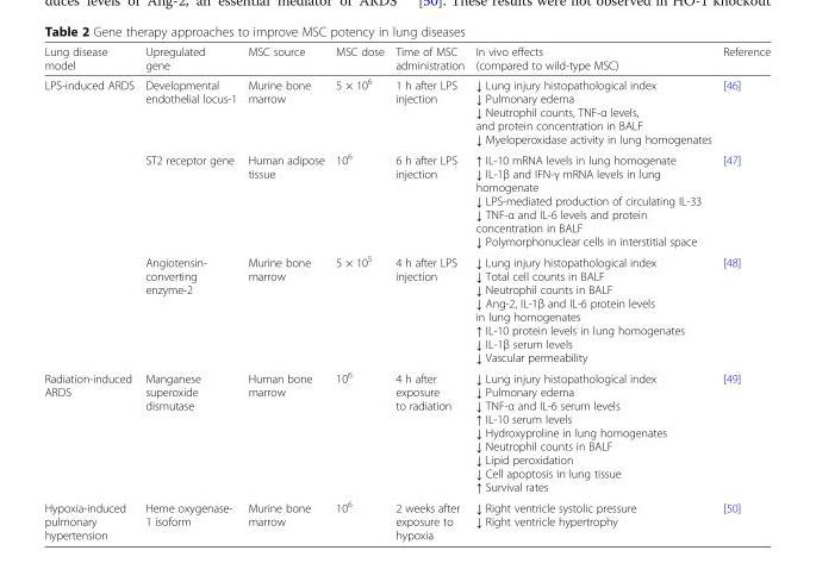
<table><thead><tr><td>Lung disease model</td><td>Upregulated gene</td><td>MSC source</td><td>MSC dose</td><td>Time of MSC administration</td><td>In vivo effects (compared to wild-type MSC)</td><td>Reference</td></tr></thead><tbody><tr><td rowspan="3">LPS-induced ARDS</td><td>Developmental endothelial locus-1</td><td>Murine bone marrow</td><td>5 × 10<sup>6</sup></td><td>1 h after LPS injection</td><td>↓ Lung injury histopathological index ↓ Pulmonary edema ↓ Neutrophil counts, TNF-α levels, and protein concentration in BALF ↓ Myeloperoxidase activity in lung homogenates</td><td>[46]</td></tr><tr><td>ST2 receptor gene</td><td>Human adipose tissue</td><td>10<sup>6</sup></td><td>6 h after LPS injection</td><td>↑ IL-10 mRNA levels in lung homogenate ↓ IL-1β and IFN-γ mRNA levels in lung homogenate ↓ LPS-mediated production of circulating IL-33 ↓ TNF-α and IL-6 levels and protein concentration in BALF ↓ Polymorphonuclear cells in interstitial space</td><td>[47]</td></tr><tr><td>Angiotensin- converting enzyme-2</td><td>Murine bone marrow</td><td>5 × 10<sup>5</sup></td><td>4 h after LPS injection</td><td>↓ Lung injury histopathological index ↓ Total cell counts in BALF ↓ Neutrophil counts in BALF ↓ Ang-2, IL-1β and IL-6 protein levels in lung homogenates ↑ IL-10 protein levels in lung homogenates ↓ IL-1β serum levels ↓ Vascular permeability</td><td>[48]</td></tr><tr><td>Radiation-induced ARDS</td><td>Manganese superoxide dismutase</td><td>Human bone marrow</td><td>10<sup>6</sup></td><td>4 h after exposure to radiation</td><td>↓ Lung injury histopathological index ↓ Pulmonary edema ↓ TNF-α and IL-6 serum levels ↑ IL-10 serum levels ↓ Hydroxyproline in lung homogenates ↓ Neutrophil counts in BALF ↓ Lipid peroxidation ↓ Cell apoptosis in lung tissue ↑ Survival rates</td><td>[49]</td></tr><tr><td>Hypoxia-induced pulmonary hypertension</td><td>Heme oxygenase- 1 isoform</td><td>Murine bone marrow</td><td>10<sup>6</sup></td><td>2 weeks after exposure to hypoxia</td><td>↓ Right ventricle systolic pressure ↓ Right ventricle hypertrophy</td><td>[50]</td></tr></tbody></table>